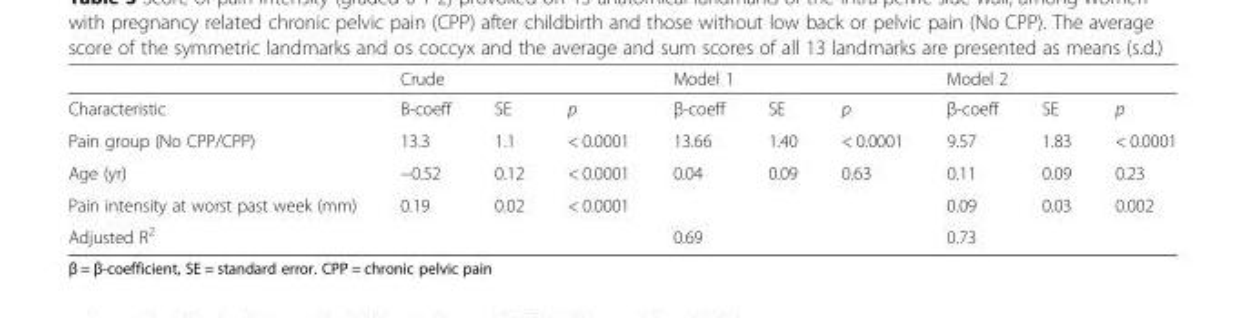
<table><thead><tr><td rowspan="2">Characteristic</td><td colspan="3">Crude</td><td colspan="3">Model 1</td><td colspan="3">Model 2</td></tr><tr><td>Β-coeff</td><td>SE</td><td>p</td><td>β-coeff</td><td>SE</td><td>p</td><td>β-coeff</td><td>SE</td><td>p</td></tr></thead><tbody><tr><td>Pain group (No CPP/CPP)</td><td>13.3</td><td>1.1</td><td>&lt; 0.0001</td><td>13.66</td><td>1.40</td><td>&lt; 0.0001</td><td>9.57</td><td>1.83</td><td>&lt; 0.0001</td></tr><tr><td>Age (yr)</td><td>−0.52</td><td>0.12</td><td>&lt; 0.0001</td><td>0.04</td><td>0.09</td><td>0.63</td><td>0.11</td><td>0.09</td><td>0.23</td></tr><tr><td>Pain intensity at worst past week (mm)</td><td>0.19</td><td>0.02</td><td>&lt; 0.0001</td><td></td><td></td><td></td><td>0.09</td><td>0.03</td><td>0.002</td></tr><tr><td>Adjusted R<sup>2</sup></td><td></td><td></td><td></td><td>0.69</td><td></td><td></td><td>0.73</td><td></td><td></td></tr></tbody></table>